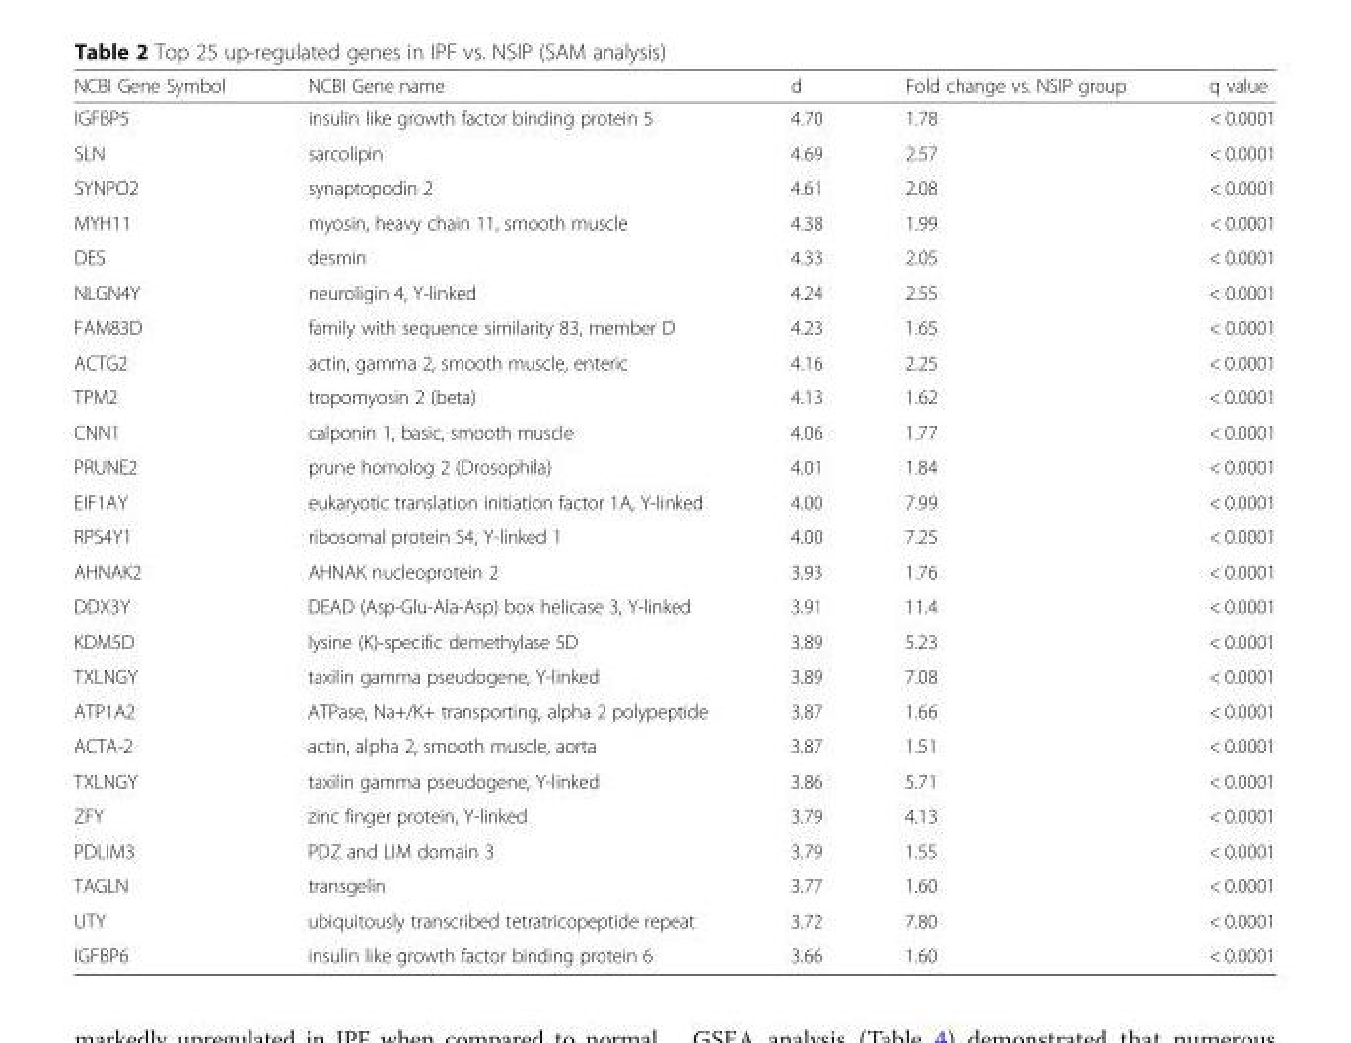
<table><thead><tr><td>NCBI Gene Symbol</td><td>NCBI Gene name</td><td>d</td><td>Fold change vs. NSIP group</td><td>q value</td></tr></thead><tbody><tr><td>IGFBP5</td><td>insulin like growth factor binding protein 5</td><td>4.70</td><td>1.78</td><td>&lt; 0.0001</td></tr><tr><td>SLN</td><td>sarcolipin</td><td>4.69</td><td>2.57</td><td>&lt; 0.0001</td></tr><tr><td>SYNPO2</td><td>synaptopodin 2</td><td>4.61</td><td>2.08</td><td>&lt; 0.0001</td></tr><tr><td>MYH11</td><td>myosin, heavy chain 11, smooth muscle</td><td>4.38</td><td>1.99</td><td>&lt; 0.0001</td></tr><tr><td>DES</td><td>desmin</td><td>4.33</td><td>2.05</td><td>&lt; 0.0001</td></tr><tr><td>NLGN4Y</td><td>neuroligin 4, Y-linked</td><td>4.24</td><td>2.55</td><td>&lt; 0.0001</td></tr><tr><td>FAM83D</td><td>family with sequence similarity 83, member D</td><td>4.23</td><td>1.65</td><td>&lt; 0.0001</td></tr><tr><td>ACTG2</td><td>actin, gamma 2, smooth muscle, enteric</td><td>4.16</td><td>2.25</td><td>&lt; 0.0001</td></tr><tr><td>TPM2</td><td>tropomyosin 2 (beta)</td><td>4.13</td><td>1.62</td><td>&lt; 0.0001</td></tr><tr><td>CNN1</td><td>calponin 1, basic, smooth muscle</td><td>4.06</td><td>1.77</td><td>&lt; 0.0001</td></tr><tr><td>PRUNE2</td><td>prune homolog 2 (Drosophila)</td><td>4.01</td><td>1.84</td><td>&lt; 0.0001</td></tr><tr><td>EIF1AY</td><td>eukaryotic translation initiation factor 1A, Y-linked</td><td>4.00</td><td>7.99</td><td>&lt; 0.0001</td></tr><tr><td>RPS4Y1</td><td>ribosomal protein S4, Y-linked 1</td><td>4.00</td><td>7.25</td><td>&lt; 0.0001</td></tr><tr><td>AHNAK2</td><td>AHNAK nucleoprotein 2</td><td>3.93</td><td>1.76</td><td>&lt; 0.0001</td></tr><tr><td>DDX3Y</td><td>DEAD (Asp-Glu-Ala-Asp) box helicase 3, Y-linked</td><td>3.91</td><td>11.4</td><td>&lt; 0.0001</td></tr><tr><td>KDM5D</td><td>lysine (K)-specific demethylase 5D</td><td>3.89</td><td>5.23</td><td>&lt; 0.0001</td></tr><tr><td>TXLNGY</td><td>taxilin gamma pseudogene, Y-linked</td><td>3.89</td><td>7.08</td><td>&lt; 0.0001</td></tr><tr><td>ATP1A2</td><td>ATPase, Na+/K+ transporting, alpha 2 polypeptide</td><td>3.87</td><td>1.66</td><td>&lt; 0.0001</td></tr><tr><td>ACTA-2</td><td>actin, alpha 2, smooth muscle, aorta</td><td>3.87</td><td>1.51</td><td>&lt; 0.0001</td></tr><tr><td>TXLNGY</td><td>taxilin gamma pseudogene, Y-linked</td><td>3.86</td><td>5.71</td><td>&lt; 0.0001</td></tr><tr><td>ZFY</td><td>zinc finger protein, Y-linked</td><td>3.79</td><td>4.13</td><td>&lt; 0.0001</td></tr><tr><td>PDLIM3</td><td>PDZ and LIM domain 3</td><td>3.79</td><td>1.55</td><td>&lt; 0.0001</td></tr><tr><td>TAGLN</td><td>transgelin</td><td>3.77</td><td>1.60</td><td>&lt; 0.0001</td></tr><tr><td>UTY</td><td>ubiquitously transcribed tetratricopeptide repeat</td><td>3.72</td><td>7.80</td><td>&lt; 0.0001</td></tr><tr><td>IGFBP6</td><td>insulin like growth factor binding protein 6</td><td>3.66</td><td>1.60</td><td>&lt; 0.0001</td></tr></tbody></table>